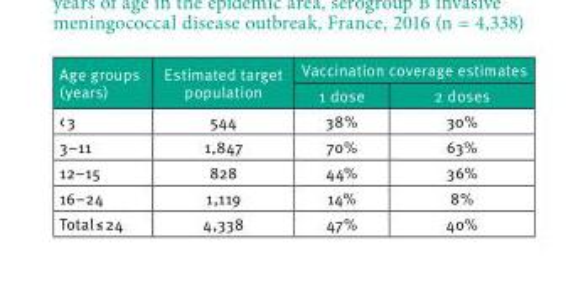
<table><thead><tr><td rowspan="2">Age groups (years)</td><td rowspan="2">Estimated target population</td><td colspan="2">Vaccination coverage estimates</td></tr><tr><td>1 dose</td><td>2 doses</td></tr></thead><tbody><tr><td>&lt; 3</td><td>544</td><td>38%</td><td>30%</td></tr><tr><td>3–11</td><td>1,847</td><td>70%</td><td>63%</td></tr><tr><td>12–15</td><td>828</td><td>44%</td><td>36%</td></tr><tr><td>16–24</td><td>1,119</td><td>14%</td><td>8%</td></tr><tr><td>Total ≤ 24</td><td>4,338</td><td>47%</td><td>40%</td></tr></tbody></table>